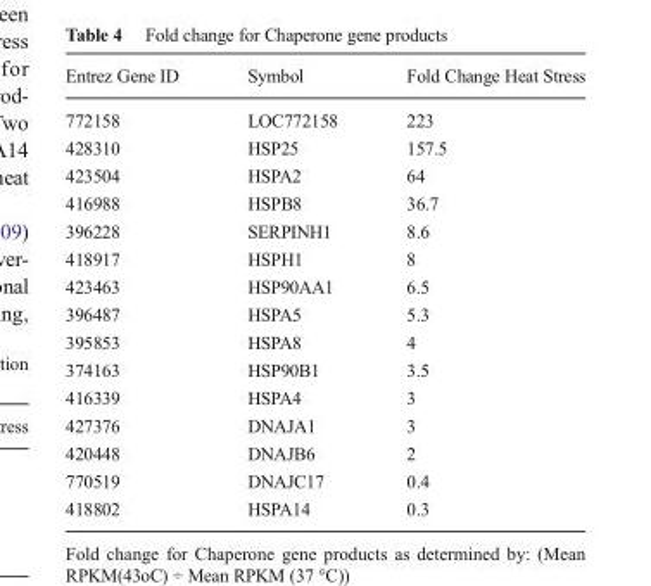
<table><thead><tr><td>Entrez Gene ID</td><td>Symbol</td><td>Fold Change Heat Stress</td></tr></thead><tbody><tr><td>772158</td><td>LOC772158</td><td>223</td></tr><tr><td>428310</td><td>HSP25</td><td>157.5</td></tr><tr><td>423504</td><td>HSPA2</td><td>64</td></tr><tr><td>416988</td><td>HSPB8</td><td>36.7</td></tr><tr><td>396228</td><td>SERPINH1</td><td>8.6</td></tr><tr><td>418917</td><td>HSPH1</td><td>8</td></tr><tr><td>423463</td><td>HSP90AA1</td><td>6.5</td></tr><tr><td>396487</td><td>HSPA5</td><td>5.3</td></tr><tr><td>395853</td><td>HSPA8</td><td>4</td></tr><tr><td>374163</td><td>HSP90B1</td><td>3.5</td></tr><tr><td>416339</td><td>HSPA4</td><td>3</td></tr><tr><td>427376</td><td>DNAJA1</td><td>3</td></tr><tr><td>420448</td><td>DNAJB6</td><td>2</td></tr><tr><td>770519</td><td>DNAJC17</td><td>0.4</td></tr><tr><td>418802</td><td>HSPA14</td><td>0.3</td></tr></tbody></table>